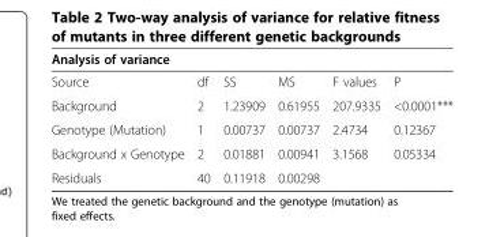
<table><thead><tr><td colspan="6">Analysis of variance</td></tr><tr><td>Source</td><td>df</td><td>SS</td><td>MS</td><td>F values</td><td>P</td></tr></thead><tbody><tr><td>Background</td><td>2</td><td>1.23909</td><td>0.61955</td><td>207.9335</td><td>&lt;0.0001***</td></tr><tr><td>Genotype (Mutation)</td><td>1</td><td>0.00737</td><td>0.00737</td><td>2.4734</td><td>0.12367</td></tr><tr><td>Background x Genotype</td><td>2</td><td>0.01881</td><td>0.00941</td><td>3.1568</td><td>0.05334</td></tr><tr><td>Residuals</td><td>40</td><td>0.11918</td><td>0.00298</td><td></td><td></td></tr></tbody></table>